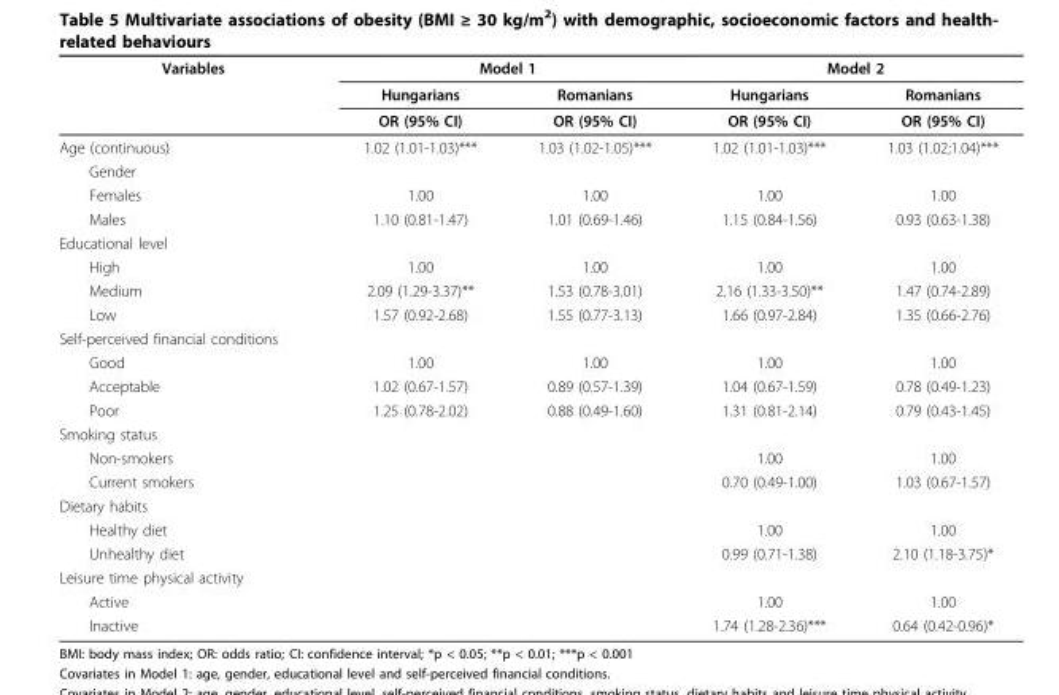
<table><thead><tr><td rowspan="3">Variables</td><td colspan="2">Model 1</td><td colspan="2">Model 2</td></tr><tr><td rowspan="2">Hungarians OR (95% CI)</td><td rowspan="2">Romanians OR (95% CI)</td><td rowspan="2">Hungarians OR (95% CI)</td><td rowspan="2">Romanians OR (95% CI)</td></tr><tr></tr></thead><tbody><tr><td>Age (continuous)</td><td>1.02 (1.01-1.03)***</td><td>1.03 (1.02-1.05)***</td><td>1.02 (1.01-1.03)***</td><td>1.03 (1.02;1.04)***</td></tr><tr><td colspan="5">Gender</td></tr><tr><td>Females</td><td>1.00</td><td>1.00</td><td>1.00</td><td>1.00</td></tr><tr><td>Males</td><td>1.10 (0.81-1.47)</td><td>1.01 (0.69-1.46)</td><td>1.15 (0.84-1.56)</td><td>0.93 (0.63-1.38)</td></tr><tr><td colspan="5">Educational level</td></tr><tr><td>High</td><td>1.00</td><td>1.00</td><td>1.00</td><td>1.00</td></tr><tr><td>Medium</td><td>2.09 (1.29-3.37)**</td><td>1.53 (0.78-3.01)</td><td>2.16 (1.33-3.50)**</td><td>1.47 (0.74-2.89)</td></tr><tr><td>Low</td><td>1.57 (0.92-2.68)</td><td>1.55 (0.77-3.13)</td><td>1.66 (0.97-2.84)</td><td>1.35 (0.66-2.76)</td></tr><tr><td colspan="5">Self-perceived financial conditions</td></tr><tr><td>Good</td><td>1.00</td><td>1.00</td><td>1.00</td><td>1.00</td></tr><tr><td>Acceptable</td><td>1.02 (0.67-1.57)</td><td>0.89 (0.57-1.39)</td><td>1.04 (0.67-1.59)</td><td>0.78 (0.49-1.23)</td></tr><tr><td>Poor</td><td>1.25 (0.78-2.02)</td><td>0.88 (0.49-1.60)</td><td>1.31 (0.81-2.14)</td><td>0.79 (0.43-1.45)</td></tr><tr><td colspan="5">Smoking status</td></tr><tr><td>Non-smokers</td><td></td><td></td><td>1.00</td><td>1.00</td></tr><tr><td>Current smokers</td><td></td><td></td><td>0.70 (0.49-1.00)</td><td>1.03 (0.67-1.57)</td></tr><tr><td colspan="5">Dietary habits</td></tr><tr><td>Healthy diet</td><td></td><td></td><td>1.00</td><td>1.00</td></tr><tr><td>Unhealthy diet</td><td></td><td></td><td>0.99 (0.71-1.38)</td><td>2.10 (1.18-3.75)*</td></tr><tr><td colspan="5">Leisure time physical activity</td></tr><tr><td>Active</td><td></td><td></td><td>1.00</td><td>1.00</td></tr><tr><td>Inactive</td><td></td><td></td><td>1.74 (1.28-2.36)***</td><td>0.64 (0.42-0.96)*</td></tr></tbody></table>